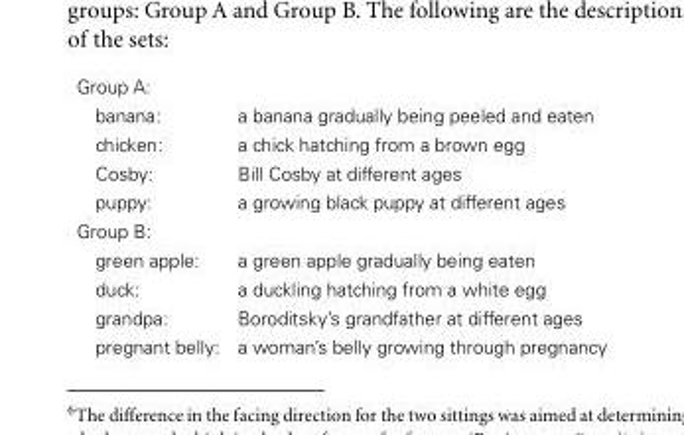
<table><tbody><tr><td colspan="2">Group A:</td></tr><tr><td>banana:</td><td>a banana gradually being peeled and eaten</td></tr><tr><td>chicken:</td><td>a chick hatching from a brown egg</td></tr><tr><td>Cosby:</td><td>Bill Cosby at different ages</td></tr><tr><td>puppy:</td><td>a growing black puppy at different ages</td></tr><tr><td colspan="2">Group B:</td></tr><tr><td>green apple:</td><td>a green apple gradually being eaten</td></tr><tr><td>duck:</td><td>a duckling hatching from a white egg</td></tr><tr><td>grandpa:</td><td>Boroditsky’s grandfather at different ages</td></tr><tr><td>pregnant belly:</td><td>a woman’s belly growing through pregnancy</td></tr></tbody></table>